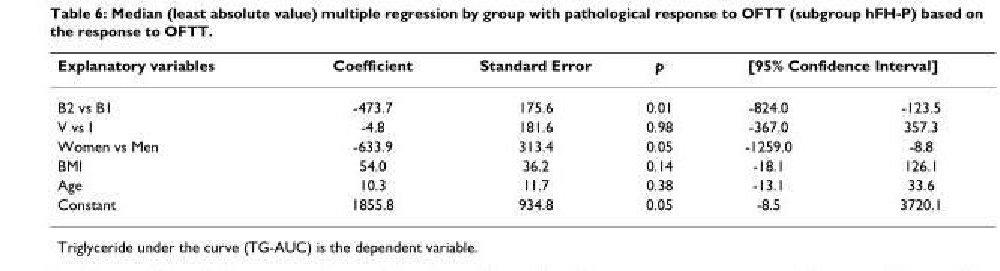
<table><thead><tr><td rowspan="2">Explanatory variables B2 vs B1</td><td rowspan="2">Coefficient -473.7</td><td rowspan="2">Standard Error 175.6</td><td rowspan="2">p 0.01</td><td colspan="2">[95% Confidence Interval]</td></tr><tr><td>-824.0</td><td>-123.5</td></tr></thead><tbody><tr><td>V vs I</td><td>-4.8</td><td>181.6</td><td>0.98</td><td>-367.0</td><td>357.3</td></tr><tr><td>Women vs Men</td><td>-633.9</td><td>313.4</td><td>0.05</td><td>-1259.0</td><td>-8.8</td></tr><tr><td>BMI</td><td>54.0</td><td>36.2</td><td>0.14</td><td>-18.1</td><td>126.1</td></tr><tr><td>Age</td><td>10.3</td><td>11.7</td><td>0.38</td><td>-13.1</td><td>33.6</td></tr><tr><td>Constant</td><td>1855.8</td><td>934.8</td><td>0.05</td><td>-8.5</td><td>3720.1</td></tr></tbody></table>